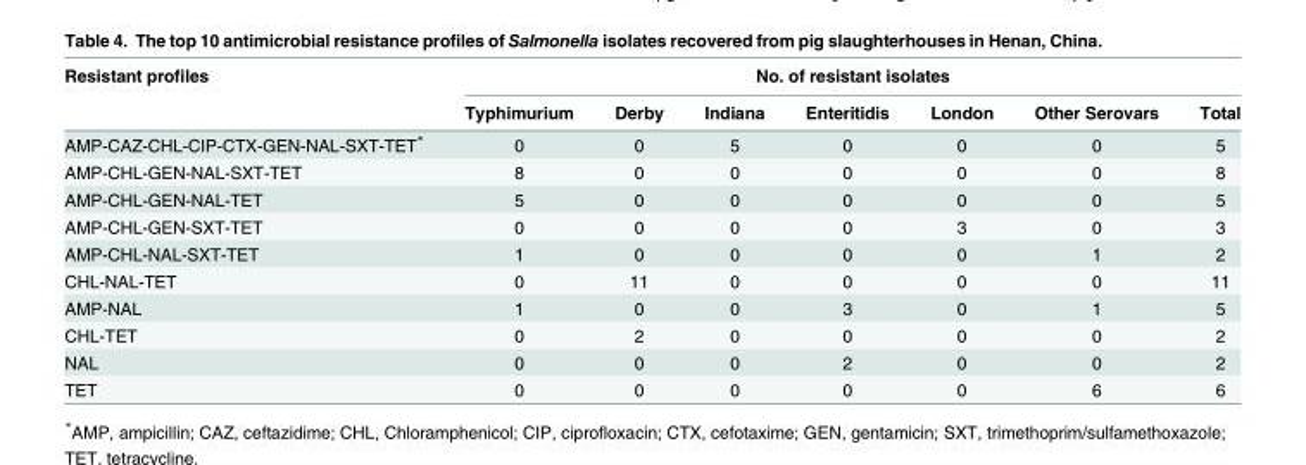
<table><thead><tr><td rowspan="2">Resistant profiles</td><td colspan="7">No. of resistant isolates</td></tr><tr><td>Typhimurium</td><td>Derby</td><td>Indiana</td><td>Enteritidis</td><td>London</td><td>Other Serovars</td><td>Total</td></tr></thead><tbody><tr><td>AMP-CAZ-CHL-CIP-CTX-GEN-NAL-SXT-TET*</td><td>0</td><td>0</td><td>5</td><td>0</td><td>0</td><td>0</td><td>5</td></tr><tr><td>AMP-CHL-GEN-NAL-SXT-TET</td><td>8</td><td>0</td><td>0</td><td>0</td><td>0</td><td>0</td><td>8</td></tr><tr><td>AMP-CHL-GEN-NAL-TET</td><td>5</td><td>0</td><td>0</td><td>0</td><td>0</td><td>0</td><td>5</td></tr><tr><td>AMP-CHL-GEN-SXT-TET</td><td>0</td><td>0</td><td>0</td><td>0</td><td>3</td><td>0</td><td>3</td></tr><tr><td>AMP-CHL-NAL-SXT-TET</td><td>1</td><td>0</td><td>0</td><td>0</td><td>0</td><td>1</td><td>2</td></tr><tr><td>CHL-NAL-TET</td><td>0</td><td>11</td><td>0</td><td>0</td><td>0</td><td>0</td><td>11</td></tr><tr><td>AMP-NAL</td><td>1</td><td>0</td><td>0</td><td>3</td><td>0</td><td>1</td><td>5</td></tr><tr><td>CHL-TET</td><td>0</td><td>2</td><td>0</td><td>0</td><td>0</td><td>0</td><td>2</td></tr><tr><td>NAL</td><td>0</td><td>0</td><td>0</td><td>2</td><td>0</td><td>0</td><td>2</td></tr><tr><td>TET</td><td>0</td><td>0</td><td>0</td><td>0</td><td>0</td><td>6</td><td>6</td></tr></tbody></table>